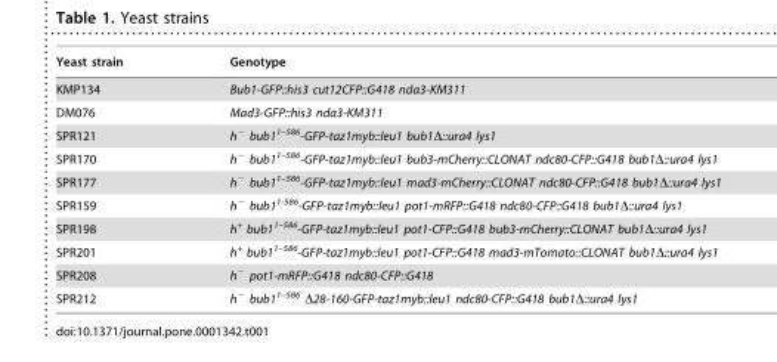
<table><thead><tr><td>Yeast strain</td><td>Genotype</td></tr></thead><tbody><tr><td>KMP134</td><td>Bub1-GFP::his3 cut12CFP::G418 nda3-KM311</td></tr><tr><td>DM076</td><td>Mad3-GFP::his3 nda3-KM311</td></tr><tr><td>SPR121</td><td>h<sup>−</sup> bub1<sup>1–586</sup>-GFP-taz1myb::leu1 bub1Δ::ura4 lys1</td></tr><tr><td>SPR170</td><td>h<sup>−</sup> bub1<sup>1–586</sup>-GFP-taz1myb::leu1 bub3-mCherry::CLONAT ndc80-CFP::G418 bub1Δ::ura4 lys1</td></tr><tr><td>SPR177</td><td>h<sup>−</sup> bub1<sup>1–586</sup>-GFP-taz1myb::leu1 mad3-mCherry::CLONAT ndc80-CFP::G418 bub1Δ::ura4 lys1</td></tr><tr><td>SPR159</td><td>h<sup>−</sup> bub1<sup>1-586</sup>-GFP-taz1myb::leu1 pot1-mRFP::G418 ndc80-CFP::G418 bub1Δ::ura4 lys1</td></tr><tr><td>SPR198</td><td>h<sup>+</sup> bub1<sup>1–586</sup>-GFP-taz1myb::leu1 pot1-CFP::G418 bub3-mCherry::CLONAT bub1Δ::ura4 lys1</td></tr><tr><td>SPR201</td><td>h<sup>+</sup> bub1<sup>1–586</sup>-GFP-taz1myb::leu1 pot1-CFP::G418 mad3-mTomato::CLONAT bub1Δ::ura4 lys1</td></tr><tr><td>SPR208</td><td>h<sup>−</sup> pot1-mRFP::G418 ndc80-CFP::G418</td></tr><tr><td>SPR212</td><td>h<sup>−</sup> bub1<sup>1–586</sup> Δ28-160-GFP-taz1myb::leu1 ndc80-CFP::G418 bub1Δ::ura4 lys1</td></tr></tbody></table>